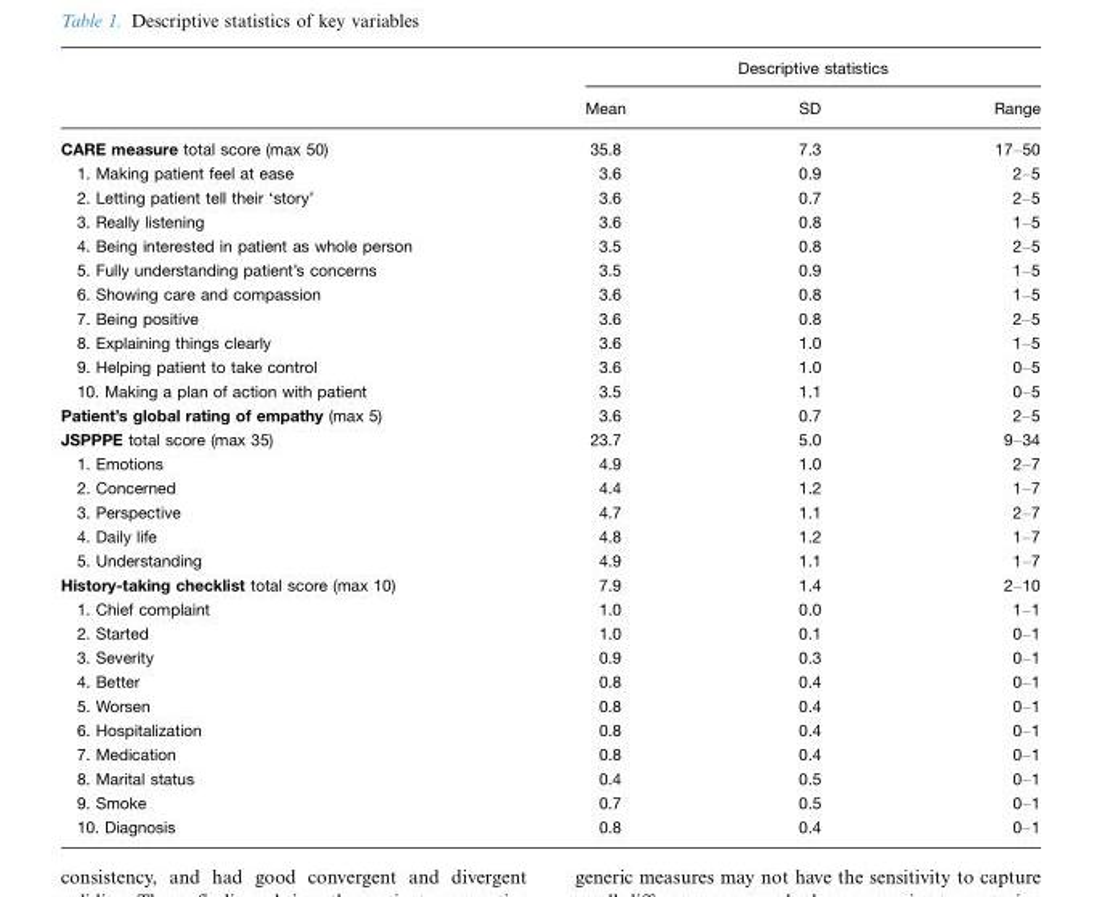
<table><thead><tr><td rowspan="2"></td><td colspan="3">Descriptive statistics</td></tr><tr><td>Mean</td><td>SD</td><td>Range</td></tr></thead><tbody><tr><td>CARE measure total score (max 50)</td><td>35.8</td><td>7.3</td><td>17–50</td></tr><tr><td>1. Making patient feel at ease</td><td>3.6</td><td>0.9</td><td>2–5</td></tr><tr><td>2. Letting patient tell their ‘story’</td><td>3.6</td><td>0.7</td><td>2–5</td></tr><tr><td>3. Really listening</td><td>3.6</td><td>0.8</td><td>1–5</td></tr><tr><td>4. Being interested in patient as whole person</td><td>3.5</td><td>0.8</td><td>2–5</td></tr><tr><td>5. Fully understanding patient’s concerns</td><td>3.5</td><td>0.9</td><td>1–5</td></tr><tr><td>6. Showing care and compassion</td><td>3.6</td><td>0.8</td><td>1–5</td></tr><tr><td>7. Being positive</td><td>3.6</td><td>0.8</td><td>2–5</td></tr><tr><td>8. Explaining things clearly</td><td>3.6</td><td>1.0</td><td>1–5</td></tr><tr><td>9. Helping patient to take control</td><td>3.6</td><td>1.0</td><td>0–5</td></tr><tr><td>10. Making a plan of action with patient</td><td>3.5</td><td>1.1</td><td>0–5</td></tr><tr><td>Patient’s global rating of empathy (max 5)</td><td>3.6</td><td>0.7</td><td>2–5</td></tr><tr><td>JSPPPE total score (max 35)</td><td>23.7</td><td>5.0</td><td>9–34</td></tr><tr><td>1. Emotions</td><td>4.9</td><td>1.0</td><td>2–7</td></tr><tr><td>2. Concerned</td><td>4.4</td><td>1.2</td><td>1–7</td></tr><tr><td>3. Perspective</td><td>4.7</td><td>1.1</td><td>2–7</td></tr><tr><td>4. Daily life</td><td>4.8</td><td>1.2</td><td>1–7</td></tr><tr><td>5. Understanding</td><td>4.9</td><td>1.1</td><td>1–7</td></tr><tr><td>History-taking checklist total score (max 10)</td><td>7.9</td><td>1.4</td><td>2–10</td></tr><tr><td>1. Chief complaint</td><td>1.0</td><td>0.0</td><td>1–1</td></tr><tr><td>2. Started</td><td>1.0</td><td>0.1</td><td>0–1</td></tr><tr><td>3. Severity</td><td>0.9</td><td>0.3</td><td>0–1</td></tr><tr><td>4. Better</td><td>0.8</td><td>0.4</td><td>0–1</td></tr><tr><td>5. Worsen</td><td>0.8</td><td>0.4</td><td>0–1</td></tr><tr><td>6. Hospitalization</td><td>0.8</td><td>0.4</td><td>0–1</td></tr><tr><td>7. Medication</td><td>0.8</td><td>0.4</td><td>0–1</td></tr><tr><td>8. Marital status</td><td>0.4</td><td>0.5</td><td>0–1</td></tr><tr><td>9. Smoke</td><td>0.7</td><td>0.5</td><td>0–1</td></tr><tr><td>10. Diagnosis</td><td>0.8</td><td>0.4</td><td>0–1</td></tr></tbody></table>